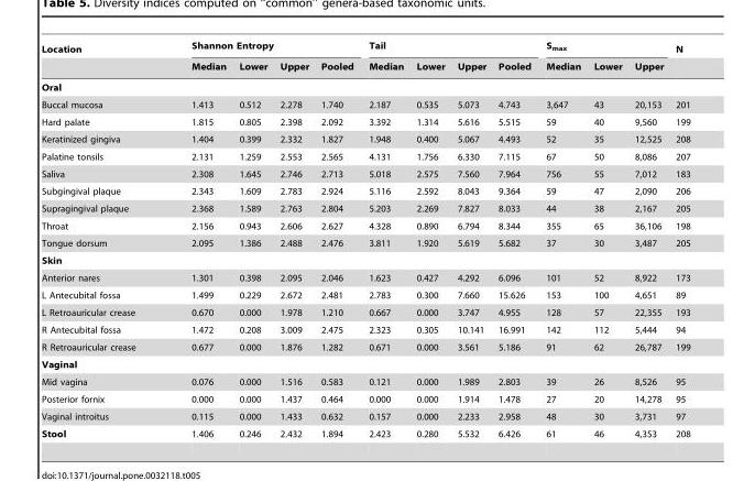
<table><thead><tr><td rowspan="2">Location</td><td colspan="4">Shannon Entropy</td><td colspan="4">Tail</td><td colspan="3">S<sub>max</sub></td><td rowspan="2">N</td></tr><tr><td>Median</td><td>Lower</td><td>Upper</td><td>Pooled</td><td>Median</td><td>Lower</td><td>Upper</td><td>Pooled</td><td>Median</td><td>Lower</td><td>Upper</td></tr></thead><tbody><tr><td colspan="13">Oral</td></tr><tr><td>Buccal mucosa</td><td>1.413</td><td>0.512</td><td>2.278</td><td>1.740</td><td>2.187</td><td>0.535</td><td>5.073</td><td>4.743</td><td>3,647</td><td>43</td><td>20,153</td><td>201</td></tr><tr><td>Hard palate</td><td>1.815</td><td>0.805</td><td>2.398</td><td>2.092</td><td>3.392</td><td>1.314</td><td>5.616</td><td>5.515</td><td>59</td><td>40</td><td>9,560</td><td>199</td></tr><tr><td>Keratinized gingiva</td><td>1.404</td><td>0.399</td><td>2.332</td><td>1.827</td><td>1.948</td><td>0.400</td><td>5.067</td><td>4.493</td><td>52</td><td>35</td><td>12,525</td><td>208</td></tr><tr><td>Palatine tonsils</td><td>2.131</td><td>1.259</td><td>2.553</td><td>2.565</td><td>4.131</td><td>1.756</td><td>6.330</td><td>7.115</td><td>67</td><td>50</td><td>8,086</td><td>207</td></tr><tr><td>Saliva</td><td>2.308</td><td>1.645</td><td>2.746</td><td>2.713</td><td>5.018</td><td>2.575</td><td>7.560</td><td>7.964</td><td>756</td><td>55</td><td>7,012</td><td>183</td></tr><tr><td>Subgingival plaque</td><td>2.343</td><td>1.609</td><td>2.783</td><td>2.924</td><td>5.116</td><td>2.592</td><td>8.043</td><td>9.364</td><td>59</td><td>47</td><td>2,090</td><td>206</td></tr><tr><td>Supragingival plaque</td><td>2.368</td><td>1.589</td><td>2.763</td><td>2.804</td><td>5.203</td><td>2.269</td><td>7.827</td><td>8.033</td><td>44</td><td>38</td><td>2,167</td><td>205</td></tr><tr><td>Throat</td><td>2.156</td><td>0.943</td><td>2.606</td><td>2.627</td><td>4.328</td><td>0.890</td><td>6.794</td><td>8.344</td><td>355</td><td>65</td><td>36,106</td><td>198</td></tr><tr><td>Tongue dorsum</td><td>2.095</td><td>1.386</td><td>2.488</td><td>2.476</td><td>3.811</td><td>1.920</td><td>5.619</td><td>5.682</td><td>37</td><td>30</td><td>3,487</td><td>205</td></tr><tr><td colspan="13">Skin</td></tr><tr><td>Anterior nares</td><td>1.301</td><td>0.398</td><td>2.095</td><td>2.046</td><td>1.623</td><td>0.427</td><td>4.292</td><td>6.096</td><td>101</td><td>52</td><td>8,922</td><td>173</td></tr><tr><td>L Antecubital fossa</td><td>1.499</td><td>0.229</td><td>2.672</td><td>2.481</td><td>2.783</td><td>0.300</td><td>7.660</td><td>15.626</td><td>153</td><td>100</td><td>4,651</td><td>89</td></tr><tr><td>L Retroauricular crease</td><td>0.670</td><td>0.000</td><td>1.978</td><td>1.210</td><td>0.667</td><td>0.000</td><td>3.747</td><td>4.955</td><td>128</td><td>57</td><td>22,355</td><td>193</td></tr><tr><td>R Antecubital fossa</td><td>1.472</td><td>0.208</td><td>3.009</td><td>2.475</td><td>2.323</td><td>0.305</td><td>10.141</td><td>16.991</td><td>142</td><td>112</td><td>5,444</td><td>94</td></tr><tr><td>R Retroauricular crease</td><td>0.677</td><td>0.000</td><td>1.876</td><td>1.282</td><td>0.671</td><td>0.000</td><td>3.561</td><td>5.186</td><td>91</td><td>62</td><td>26,787</td><td>199</td></tr><tr><td colspan="13">Vaginal</td></tr><tr><td>Mid vagina</td><td>0.076</td><td>0.000</td><td>1.516</td><td>0.583</td><td>0.121</td><td>0.000</td><td>1.989</td><td>2.803</td><td>39</td><td>26</td><td>8,526</td><td>95</td></tr><tr><td>Posterior fornix</td><td>0.000</td><td>0.000</td><td>1.437</td><td>0.464</td><td>0.000</td><td>0.000</td><td>1.914</td><td>1.478</td><td>27</td><td>20</td><td>14,278</td><td>95</td></tr><tr><td>Vaginal introitus</td><td>0.115</td><td>0.000</td><td>1.433</td><td>0.632</td><td>0.157</td><td>0.000</td><td>2.233</td><td>2.958</td><td>48</td><td>30</td><td>3,731</td><td>97</td></tr><tr><td>Stool</td><td>1.406</td><td>0.246</td><td>2.432</td><td>1.894</td><td>2.423</td><td>0.280</td><td>5.532</td><td>6.426</td><td>61</td><td>46</td><td>4,353</td><td>208</td></tr></tbody></table>